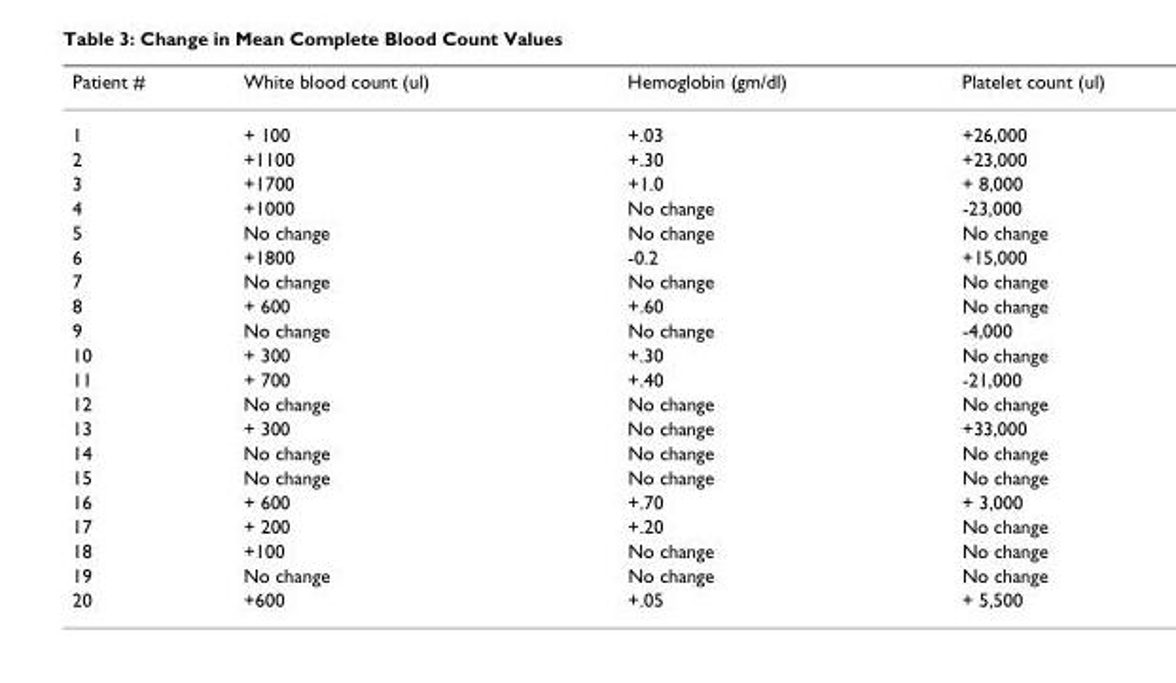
<table><thead><tr><td>Patient #</td><td>White blood count (ul)</td><td>Hemoglobin (gm/dl)</td><td>Platelet count (ul)</td></tr></thead><tbody><tr><td>1</td><td>+ 100</td><td>+.03</td><td>+26,000</td></tr><tr><td>2</td><td>+1100</td><td>+.30</td><td>+23,000</td></tr><tr><td>3</td><td>+1700</td><td>+1.0</td><td>+ 8,000</td></tr><tr><td>4</td><td>+1000</td><td>No change</td><td>-23,000</td></tr><tr><td>5</td><td>No change</td><td>No change</td><td>No change</td></tr><tr><td>6</td><td>+1800</td><td>-0.2</td><td>+15,000</td></tr><tr><td>7</td><td>No change</td><td>No change</td><td>No change</td></tr><tr><td>8</td><td>+ 600</td><td>+.60</td><td>No change</td></tr><tr><td>9</td><td>No change</td><td>No change</td><td>-4,000</td></tr><tr><td>10</td><td>+ 300</td><td>+.30</td><td>No change</td></tr><tr><td>11</td><td>+ 700</td><td>+.40</td><td>-21,000</td></tr><tr><td>12</td><td>No change</td><td>No change</td><td>No change</td></tr><tr><td>13</td><td>+ 300</td><td>No change</td><td>+33,000</td></tr><tr><td>14</td><td>No change</td><td>No change</td><td>No change</td></tr><tr><td>15</td><td>No change</td><td>No change</td><td>No change</td></tr><tr><td>16</td><td>+ 600</td><td>+.70</td><td>+ 3,000</td></tr><tr><td>17</td><td>+ 200</td><td>+.20</td><td>No change</td></tr><tr><td>18</td><td>+100</td><td>No change</td><td>No change</td></tr><tr><td>19</td><td>No change</td><td>No change</td><td>No change</td></tr><tr><td>20</td><td>+600</td><td>+.05</td><td>+ 5,500</td></tr></tbody></table>